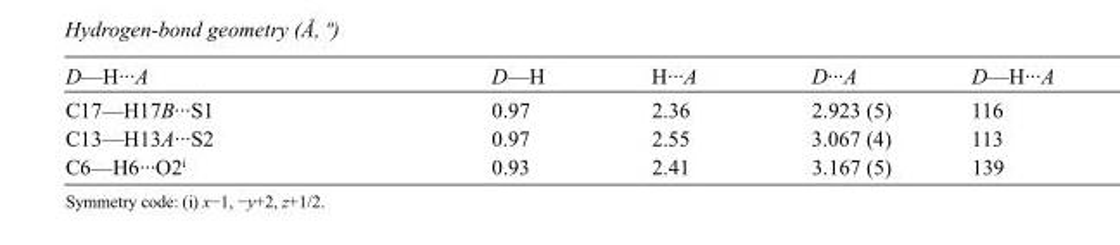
<table><tbody><tr><td>D—H···A</td><td>D—H</td><td>H···A</td><td>D···A</td><td>D—H···A</td></tr><tr><td>C17—H17B···S1</td><td>0.97</td><td>2.36</td><td>2.923 (5)</td><td>116</td></tr><tr><td>C13—H13A···S2</td><td>0.97</td><td>2.55</td><td>3.067 (4)</td><td>113</td></tr><tr><td>C6—H6···O2<sup>i</sup></td><td>0.93</td><td>2.41</td><td>3.167 (5)</td><td>139</td></tr></tbody></table>